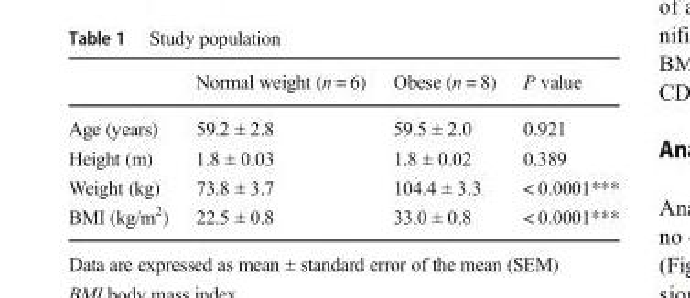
<table><thead><tr><td></td><td>Normal weight (n = 6)</td><td>Obese (n = 8)</td><td>P value</td></tr></thead><tbody><tr><td>Age (years)</td><td>59.2 ± 2.8</td><td>59.5 ± 2.0</td><td>0.921</td></tr><tr><td>Height (m)</td><td>1.8 ± 0.03</td><td>1.8 ± 0.02</td><td>0.389</td></tr><tr><td>Weight (kg)</td><td>73.8 ± 3.7</td><td>104.4 ± 3.3</td><td>&lt; 0.0001***</td></tr><tr><td>BMI (kg/m<sup>2</sup>)</td><td>22.5 ± 0.8</td><td>33.0 ± 0.8</td><td>&lt; 0.0001***</td></tr></tbody></table>